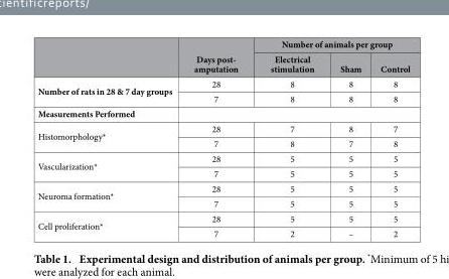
<table><thead><tr><td rowspan="2"></td><td rowspan="2">Days post- amputation</td><td colspan="3">Number of animals per group</td></tr><tr><td>Electrical stimulation</td><td>Sham</td><td>Control</td></tr></thead><tbody><tr><td rowspan="2">Number of rats in 28 &amp; 7 day groups</td><td>28</td><td>8</td><td>8</td><td>8</td></tr><tr><td>7</td><td>8</td><td>8</td><td>8</td></tr><tr><td colspan="5">Measurements Performed</td></tr><tr><td rowspan="2">Histomorphology*</td><td>28</td><td>7</td><td>8</td><td>7</td></tr><tr><td>7</td><td>8</td><td>7</td><td>8</td></tr><tr><td rowspan="2">Vascularization*</td><td>28</td><td>5</td><td>5</td><td>5</td></tr><tr><td>7</td><td>5</td><td>5</td><td>5</td></tr><tr><td rowspan="2">Neuroma formation*</td><td>28</td><td>5</td><td>5</td><td>5</td></tr><tr><td>7</td><td>5</td><td>5</td><td>5</td></tr><tr><td rowspan="2">Cell proliferation*</td><td>28</td><td>5</td><td>5</td><td>5</td></tr><tr><td>7</td><td>2</td><td>–</td><td>2</td></tr></tbody></table>